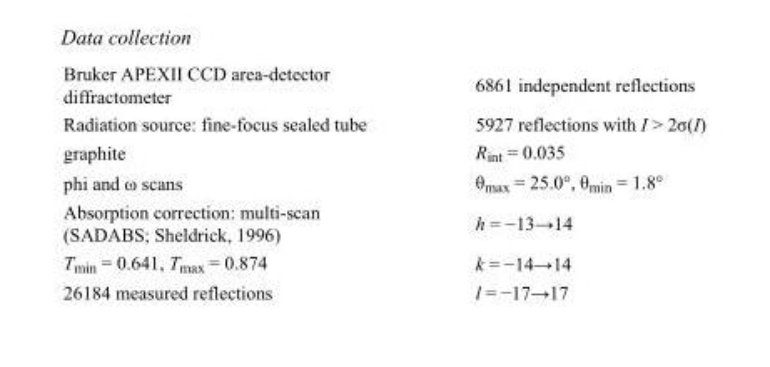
<table><tbody><tr><td>Bruker APEXII CCD area-detector diffractometer</td><td>6861 independent reflections</td></tr><tr><td>Radiation source: fine-focus sealed tube</td><td>5927 reflections with I &gt; 2σ(I)</td></tr><tr><td>graphite</td><td>R<sub>int</sub> = 0.035</td></tr><tr><td>phi and ω scans</td><td>θ<sub>max</sub> = 25.0°, θ<sub>min</sub> = 1.8°</td></tr><tr><td>Absorption correction: multi-scan (SADABS; Sheldrick, 1996)</td><td>h = −13→14</td></tr><tr><td>T<sub>min</sub> = 0.641, T<sub>max</sub> = 0.874</td><td>k = −14→14</td></tr><tr><td>26184 measured reflections</td><td>l = −17→17</td></tr></tbody></table>